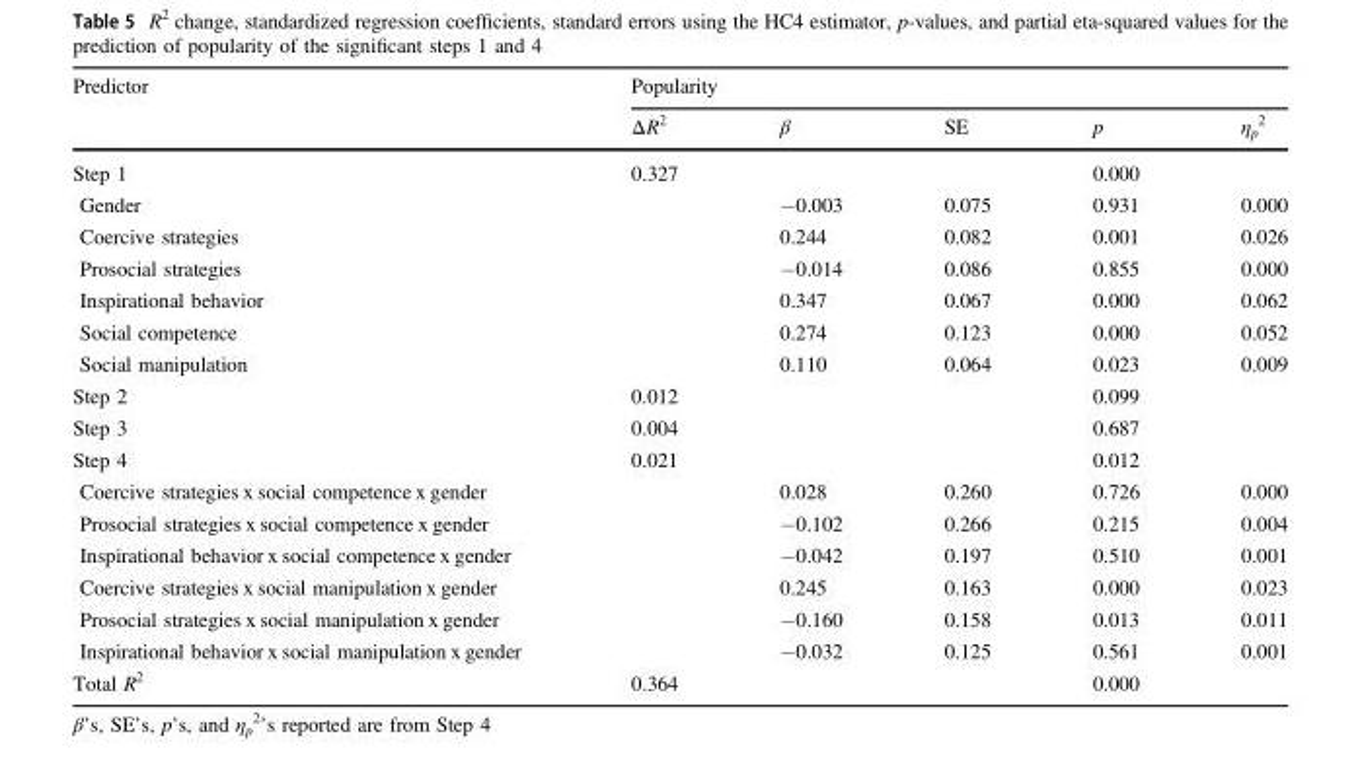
<table><thead><tr><td rowspan="2">Predictor</td><td colspan="5">Popularity</td></tr><tr><td>ΔR<sup>2</sup></td><td>β</td><td>SE</td><td>p</td><td>η<sub>p</sub> <sup>2</sup></td></tr></thead><tbody><tr><td>Step 1</td><td>0.327</td><td></td><td></td><td>0.000</td><td></td></tr><tr><td>Gender</td><td></td><td>−0.003</td><td>0.075</td><td>0.931</td><td>0.000</td></tr><tr><td>Coercive strategies</td><td></td><td>0.244</td><td>0.082</td><td>0.001</td><td>0.026</td></tr><tr><td>Prosocial strategies</td><td></td><td>−0.014</td><td>0.086</td><td>0.855</td><td>0.000</td></tr><tr><td>Inspirational behavior</td><td></td><td>0.347</td><td>0.067</td><td>0.000</td><td>0.062</td></tr><tr><td>Social competence</td><td></td><td>0.274</td><td>0.123</td><td>0.000</td><td>0.052</td></tr><tr><td>Social manipulation</td><td></td><td>0.110</td><td>0.064</td><td>0.023</td><td>0.009</td></tr><tr><td>Step 2</td><td>0.012</td><td></td><td></td><td>0.099</td><td></td></tr><tr><td>Step 3</td><td>0.004</td><td></td><td></td><td>0.687</td><td></td></tr><tr><td>Step 4</td><td>0.021</td><td></td><td></td><td>0.012</td><td></td></tr><tr><td>Coercive strategies x social competence x gender</td><td></td><td>0.028</td><td>0.260</td><td>0.726</td><td>0.000</td></tr><tr><td>Prosocial strategies x social competence x gender</td><td></td><td>−0.102</td><td>0.266</td><td>0.215</td><td>0.004</td></tr><tr><td>Inspirational behavior x social competence x gender</td><td></td><td>−0.042</td><td>0.197</td><td>0.510</td><td>0.001</td></tr><tr><td>Coercive strategies x social manipulation x gender</td><td></td><td>0.245</td><td>0.163</td><td>0.000</td><td>0.023</td></tr><tr><td>Prosocial strategies x social manipulation x gender</td><td></td><td>−0.160</td><td>0.158</td><td>0.013</td><td>0.011</td></tr><tr><td>Inspirational behavior x social manipulation x gender</td><td></td><td>−0.032</td><td>0.125</td><td>0.561</td><td>0.001</td></tr><tr><td>Total R<sup>2</sup></td><td>0.364</td><td></td><td></td><td>0.000</td><td></td></tr></tbody></table>